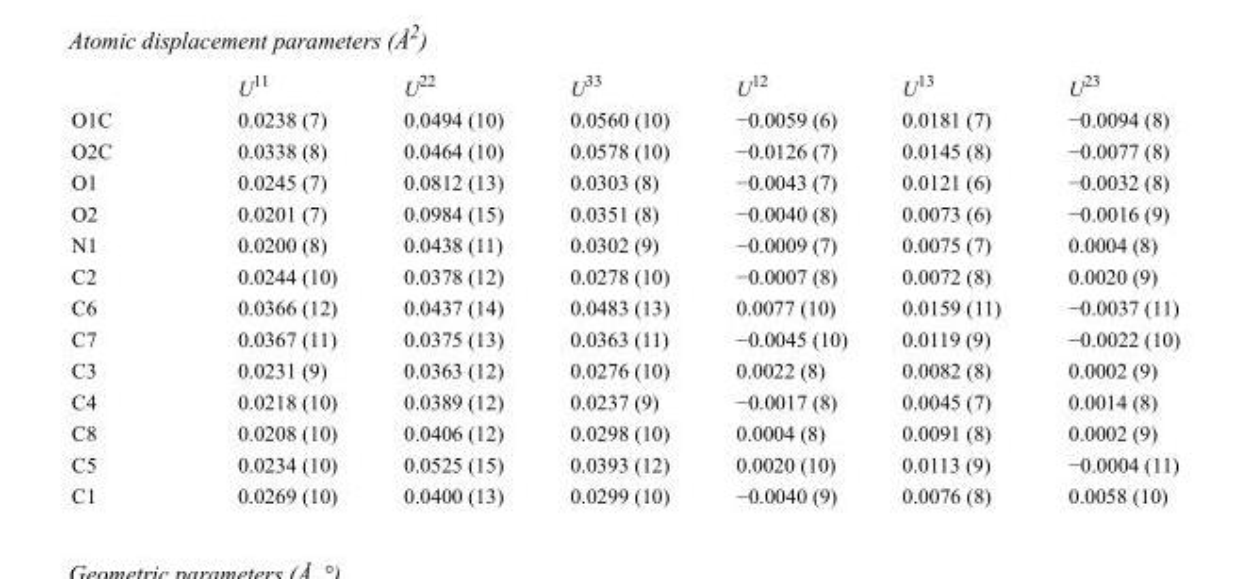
<table><thead><tr><td></td><td>U<sup>11</sup></td><td>U<sup>22</sup></td><td>U<sup>33</sup></td><td>U<sup>12</sup></td><td>U<sup>13</sup></td><td>U<sup>23</sup></td></tr></thead><tbody><tr><td>O1C</td><td>0.0238 (7)</td><td>0.0494 (10)</td><td>0.0560 (10)</td><td>−0.0059 (6)</td><td>0.0181 (7)</td><td>−0.0094 (8)</td></tr><tr><td>O2C</td><td>0.0338 (8)</td><td>0.0464 (10)</td><td>0.0578 (10)</td><td>−0.0126 (7)</td><td>0.0145 (8)</td><td>−0.0077 (8)</td></tr><tr><td>O1</td><td>0.0245 (7)</td><td>0.0812 (13)</td><td>0.0303 (8)</td><td>−0.0043 (7)</td><td>0.0121 (6)</td><td>−0.0032 (8)</td></tr><tr><td>O2</td><td>0.0201 (7)</td><td>0.0984 (15)</td><td>0.0351 (8)</td><td>−0.0040 (8)</td><td>0.0073 (6)</td><td>−0.0016 (9)</td></tr><tr><td>N1</td><td>0.0200 (8)</td><td>0.0438 (11)</td><td>0.0302 (9)</td><td>−0.0009 (7)</td><td>0.0075 (7)</td><td>0.0004 (8)</td></tr><tr><td>C2</td><td>0.0244 (10)</td><td>0.0378 (12)</td><td>0.0278 (10)</td><td>−0.0007 (8)</td><td>0.0072 (8)</td><td>0.0020 (9)</td></tr><tr><td>C6</td><td>0.0366 (12)</td><td>0.0437 (14)</td><td>0.0483 (13)</td><td>0.0077 (10)</td><td>0.0159 (11)</td><td>−0.0037 (11)</td></tr><tr><td>C7</td><td>0.0367 (11)</td><td>0.0375 (13)</td><td>0.0363 (11)</td><td>−0.0045 (10)</td><td>0.0119 (9)</td><td>−0.0022 (10)</td></tr><tr><td>C3</td><td>0.0231 (9)</td><td>0.0363 (12)</td><td>0.0276 (10)</td><td>0.0022 (8)</td><td>0.0082 (8)</td><td>0.0002 (9)</td></tr><tr><td>C4</td><td>0.0218 (10)</td><td>0.0389 (12)</td><td>0.0237 (9)</td><td>−0.0017 (8)</td><td>0.0045 (7)</td><td>0.0014 (8)</td></tr><tr><td>C8</td><td>0.0208 (10)</td><td>0.0406 (12)</td><td>0.0298 (10)</td><td>0.0004 (8)</td><td>0.0091 (8)</td><td>0.0002 (9)</td></tr><tr><td>C5</td><td>0.0234 (10)</td><td>0.0525 (15)</td><td>0.0393 (12)</td><td>0.0020 (10)</td><td>0.0113 (9)</td><td>−0.0004 (11)</td></tr><tr><td>C1</td><td>0.0269 (10)</td><td>0.0400 (13)</td><td>0.0299 (10)</td><td>−0.0040 (9)</td><td>0.0076 (8)</td><td>0.0058 (10)</td></tr></tbody></table>